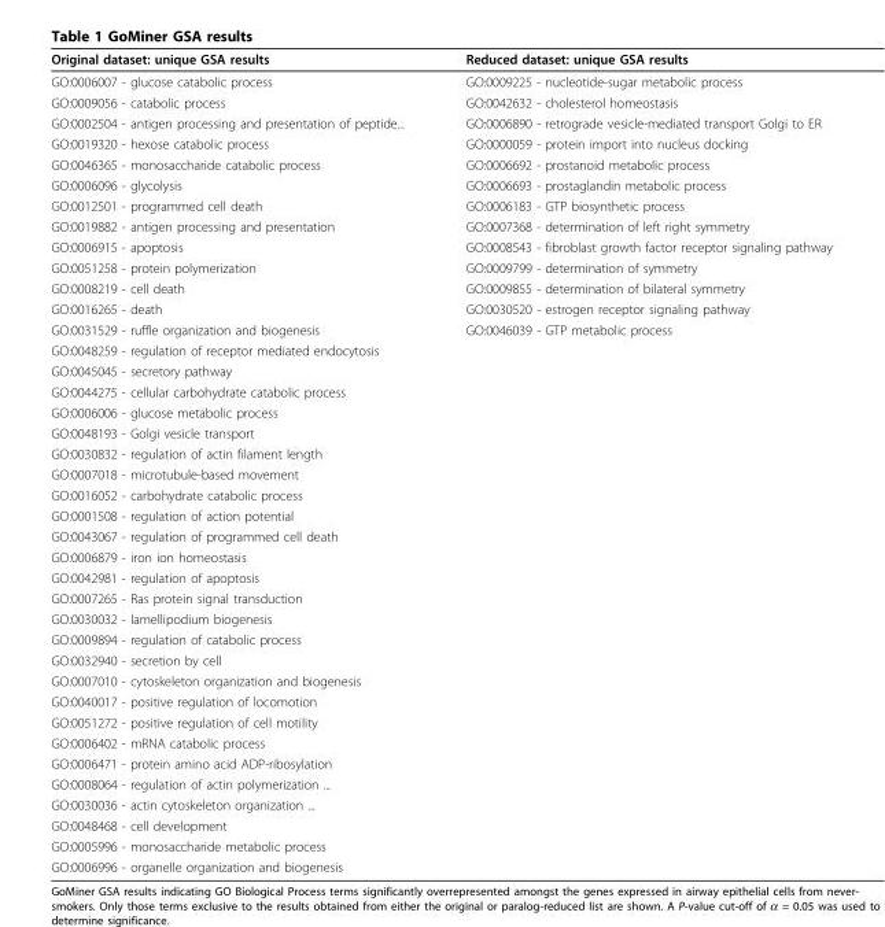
<table><thead><tr><td>Original dataset: unique GSA results</td><td>Reduced dataset: unique GSA results</td></tr></thead><tbody><tr><td>GO:0006007 - glucose catabolic process</td><td>GO:0009225 - nucleotide-sugar metabolic process</td></tr><tr><td>GO:0009056 - catabolic process</td><td>GO:0042632 - cholesterol homeostasis</td></tr><tr><td>GO:0002504 - antigen processing and presentation of peptide...</td><td>GO:0006890 - retrograde vesicle-mediated transport Golgi to ER</td></tr><tr><td>GO:0019320 - hexose catabolic process</td><td>GO:0000059 - protein import into nucleus docking</td></tr><tr><td>GO:0046365 - monosaccharide catabolic process</td><td>GO:0006692 - prostanoid metabolic process</td></tr><tr><td>GO:0006096 - glycolysis</td><td>GO:0006693 - prostaglandin metabolic process</td></tr><tr><td>GO:0012501 - programmed cell death</td><td>GO:0006183 - GTP biosynthetic process</td></tr><tr><td>GO:0019882 - antigen processing and presentation</td><td>GO:0007368 - determination of left right symmetry</td></tr><tr><td>GO:0006915 - apoptosis</td><td>GO:0008543 - fibroblast growth factor receptor signaling pathway</td></tr><tr><td>GO:0051258 - protein polymerization</td><td>GO:0009799 - determination of symmetry</td></tr><tr><td>GO:0008219 - cell death</td><td>GO:0009855 - determination of bilateral symmetry</td></tr><tr><td>GO:0016265 - death</td><td>GO:0030520 - estrogen receptor signaling pathway</td></tr><tr><td>GO:0031529 - ruffle organization and biogenesis</td><td>GO:0046039 - GTP metabolic process</td></tr><tr><td colspan="2">GO:0048259 - regulation of receptor mediated endocytosis</td></tr><tr><td colspan="2">GO:0045045 - secretory pathway</td></tr><tr><td colspan="2">GO:0044275 - cellular carbohydrate catabolic process</td></tr><tr><td colspan="2">GO:0006006 - glucose metabolic process</td></tr><tr><td colspan="2">GO:0048193 - Golgi vesicle transport</td></tr><tr><td colspan="2">GO:0030832 - regulation of actin filament length</td></tr><tr><td colspan="2">GO:0007018 - microtubule-based movement</td></tr><tr><td colspan="2">GO:0016052 - carbohydrate catabolic process</td></tr><tr><td colspan="2">GO:0001508 - regulation of action potential</td></tr><tr><td colspan="2">GO:0043067 - regulation of programmed cell death</td></tr><tr><td colspan="2">GO:0006879 - iron ion homeostasis</td></tr><tr><td colspan="2">GO:0042981 - regulation of apoptosis</td></tr><tr><td colspan="2">GO:0007265 - Ras protein signal transduction</td></tr><tr><td colspan="2">GO:0030032 - lamellipodium biogenesis</td></tr><tr><td colspan="2">GO:0009894 - regulation of catabolic process</td></tr><tr><td colspan="2">GO:0032940 - secretion by cell</td></tr><tr><td colspan="2">GO:0007010 - cytoskeleton organization and biogenesis</td></tr><tr><td colspan="2">GO:0040017 - positive regulation of locomotion</td></tr><tr><td colspan="2">GO:0051272 - positive regulation of cell motility</td></tr><tr><td colspan="2">GO:0006402 - mRNA catabolic process</td></tr><tr><td colspan="2">GO:0006471 - protein amino acid ADP-ribosylation</td></tr><tr><td colspan="2">GO:0008064 - regulation of actin polymerization ...</td></tr><tr><td colspan="2">GO:0030036 - actin cytoskeleton organization ...</td></tr><tr><td colspan="2">GO:0048468 - cell development</td></tr><tr><td colspan="2">GO:0005996 - monosaccharide metabolic process</td></tr><tr><td>GO:0006996 - organelle organization and biogenesis</td><td></td></tr></tbody></table>